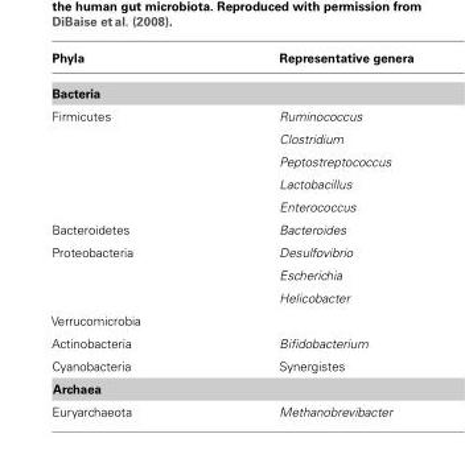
<table><thead><tr><td>Phyla</td><td>Representative genera</td></tr></thead><tbody><tr><td colspan="2">Bacteria</td></tr><tr><td rowspan="5">Firmicutes</td><td>Ruminococcus</td></tr><tr><td>Clostridium</td></tr><tr><td>Peptostreptococcus</td></tr><tr><td>Lactobacillus</td></tr><tr><td>Enterococcus</td></tr><tr><td>Bacteroidetes</td><td>Bacteroides</td></tr><tr><td rowspan="3">Proteobacteria</td><td>Desulfovibrio</td></tr><tr><td>Escherichia</td></tr><tr><td>Helicobacter</td></tr><tr><td colspan="2">Verrucomicrobia</td></tr><tr><td>Actinobacteria</td><td>Bifidobacterium</td></tr><tr><td>Cyanobacteria</td><td>Synergistes</td></tr><tr><td colspan="2">Archaea</td></tr><tr><td>Euryarchaeota</td><td>Methanobrevibacter</td></tr></tbody></table>